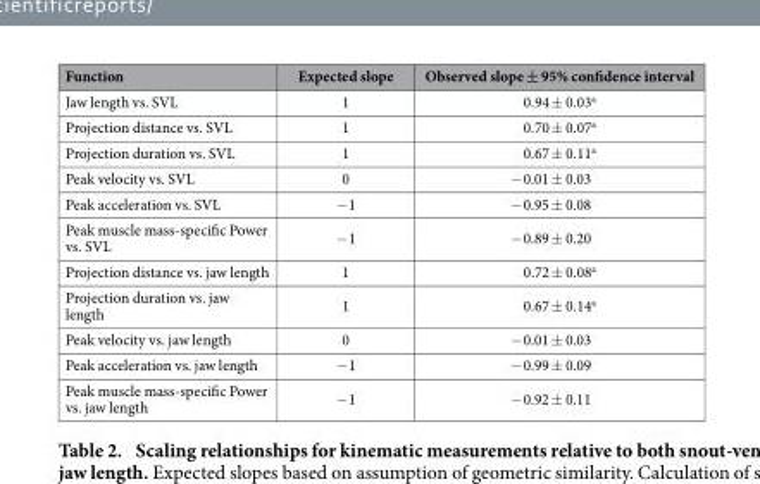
<table><thead><tr><td>Function</td><td>Expected slope</td><td>Observed slope ± 95% confidence interval</td></tr></thead><tbody><tr><td>Jaw length vs. SVL</td><td>1</td><td>0.94 ± 0.03<sup>a</sup></td></tr><tr><td>Projection distance vs. SVL</td><td>1</td><td>0.70 ± 0.07<sup>a</sup></td></tr><tr><td>Projection duration vs. SVL</td><td>1</td><td>0.67 ± 0.11<sup>a</sup></td></tr><tr><td>Peak velocity vs. SVL</td><td>0</td><td>− 0.01 ± 0.03</td></tr><tr><td>Peak acceleration vs. SVL</td><td>− 1</td><td>− 0.95 ± 0.08</td></tr><tr><td>Peak muscle mass-specific Power vs. SVL</td><td>− 1</td><td>− 0.89 ± 0.20</td></tr><tr><td>Projection distance vs. jaw length</td><td>1</td><td>0.72 ± 0.08<sup>a</sup></td></tr><tr><td>Projection duration vs. jaw length</td><td>1</td><td>0.67 ± 0.14<sup>a</sup></td></tr><tr><td>Peak velocity vs. jaw length</td><td>0</td><td>− 0.01 ± 0.03</td></tr><tr><td>Peak acceleration vs. jaw length</td><td>− 1</td><td>− 0.99 ± 0.09</td></tr><tr><td>Peak muscle mass-specific Power vs. jaw length</td><td>− 1</td><td>− 0.92 ± 0.11</td></tr></tbody></table>